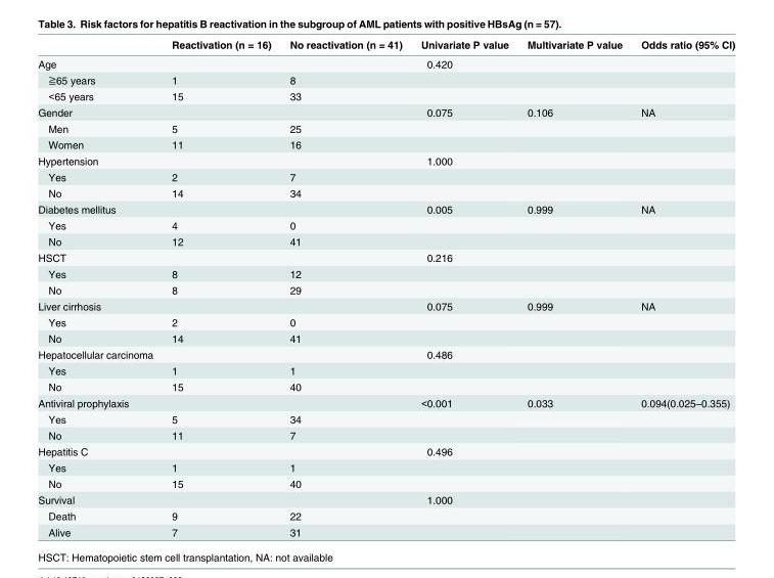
<table><thead><tr><td></td><td>Reactivation (n = 16)</td><td>No reactivation (n = 41)</td><td>Univariate P value</td><td>Multivariate P value</td><td>Odds ratio (95% CI)</td></tr></thead><tbody><tr><td>Age</td><td></td><td></td><td>0.420</td><td></td><td></td></tr><tr><td>≧65 years</td><td>1</td><td>8</td><td></td><td></td><td></td></tr><tr><td>&lt;65 years</td><td>15</td><td>33</td><td></td><td></td><td></td></tr><tr><td>Gender</td><td></td><td></td><td>0.075</td><td>0.106</td><td>NA</td></tr><tr><td>Men</td><td>5</td><td>25</td><td></td><td></td><td></td></tr><tr><td>Women</td><td>11</td><td>16</td><td></td><td></td><td></td></tr><tr><td>Hypertension</td><td></td><td></td><td>1.000</td><td></td><td></td></tr><tr><td>Yes</td><td>2</td><td>7</td><td></td><td></td><td></td></tr><tr><td>No</td><td>14</td><td>34</td><td></td><td></td><td></td></tr><tr><td>Diabetes mellitus</td><td></td><td></td><td>0.005</td><td>0.999</td><td>NA</td></tr><tr><td>Yes</td><td>4</td><td>0</td><td></td><td></td><td></td></tr><tr><td>No</td><td>12</td><td>41</td><td></td><td></td><td></td></tr><tr><td>HSCT</td><td></td><td></td><td>0.216</td><td></td><td></td></tr><tr><td>Yes</td><td>8</td><td>12</td><td></td><td></td><td></td></tr><tr><td>No</td><td>8</td><td>29</td><td></td><td></td><td></td></tr><tr><td>Liver cirrhosis</td><td></td><td></td><td>0.075</td><td>0.999</td><td>NA</td></tr><tr><td>Yes</td><td>2</td><td>0</td><td></td><td></td><td></td></tr><tr><td>No</td><td>14</td><td>41</td><td></td><td></td><td></td></tr><tr><td>Hepatocellular carcinoma</td><td></td><td></td><td>0.486</td><td></td><td></td></tr><tr><td>Yes</td><td>1</td><td>1</td><td></td><td></td><td></td></tr><tr><td>No</td><td>15</td><td>40</td><td></td><td></td><td></td></tr><tr><td>Antiviral prophylaxis</td><td></td><td></td><td>&lt;0.001</td><td>0.033</td><td>0.094(0.025–0.355)</td></tr><tr><td>Yes</td><td>5</td><td>34</td><td></td><td></td><td></td></tr><tr><td>No</td><td>11</td><td>7</td><td></td><td></td><td></td></tr><tr><td>Hepatitis C</td><td></td><td></td><td>0.496</td><td></td><td></td></tr><tr><td>Yes</td><td>1</td><td>1</td><td></td><td></td><td></td></tr><tr><td>No</td><td>15</td><td>40</td><td></td><td></td><td></td></tr><tr><td>Survival</td><td></td><td></td><td>1.000</td><td></td><td></td></tr><tr><td>Death</td><td>9</td><td>22</td><td></td><td></td><td></td></tr><tr><td>Alive</td><td>7</td><td>31</td><td></td><td></td><td></td></tr></tbody></table>